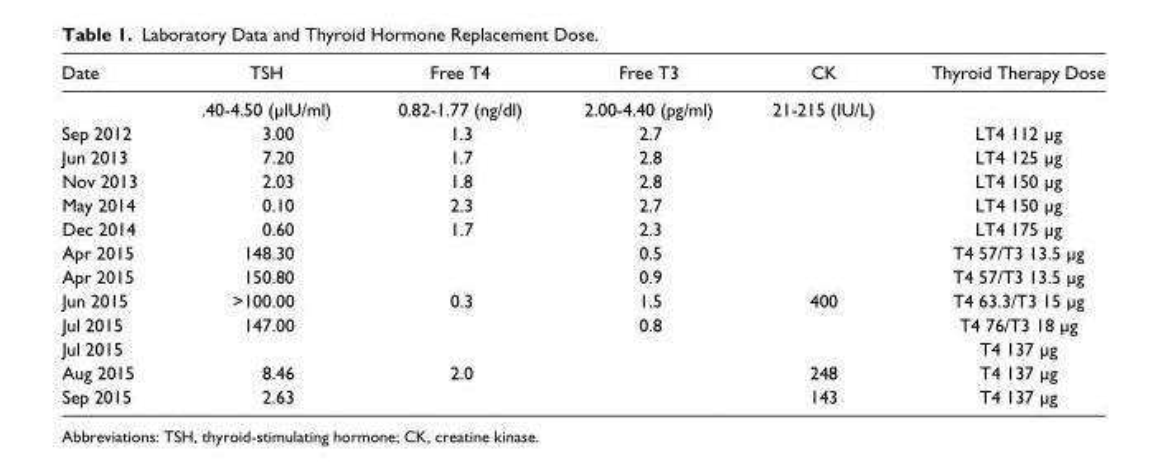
<table><thead><tr><td>Date</td><td>TSH</td><td>Free T4</td><td>Free T3</td><td>CK</td><td>Thyroid Therapy Dose</td></tr></thead><tbody><tr><td></td><td>.40-4.50 (µlU/ml)</td><td>0.82-1.77 (ng/dl)</td><td>2.00-4.40 (pg/ml)</td><td>21-215 (IU/L)</td><td></td></tr><tr><td>Sep 2012</td><td>3.00</td><td>1.3</td><td>2.7</td><td></td><td>LT4 112 µg</td></tr><tr><td>Jun 2013</td><td>7.20</td><td>1.7</td><td>2.8</td><td></td><td>LT4 125 µg</td></tr><tr><td>Nov 2013</td><td>2.03</td><td>1.8</td><td>2.8</td><td></td><td>LT4 150 µg</td></tr><tr><td>May 2014</td><td>0.10</td><td>2.3</td><td>2.7</td><td></td><td>LT4 150 µg</td></tr><tr><td>Dec 2014</td><td>0.60</td><td>1.7</td><td>2.3</td><td></td><td>LT4 175 µg</td></tr><tr><td>Apr 2015</td><td>148.30</td><td></td><td>0.5</td><td></td><td>T4 57/T3 13.5 µg</td></tr><tr><td>Apr 2015</td><td>150.80</td><td></td><td>0.9</td><td></td><td>T4 57/T3 13.5 µg</td></tr><tr><td>Jun 2015</td><td>&gt;100.00</td><td>0.3</td><td>1.5</td><td>400</td><td>T4 63.3/T3 15 µg</td></tr><tr><td>Jul 2015</td><td>147.00</td><td></td><td>0.8</td><td></td><td>T4 76/T3 18 µg</td></tr><tr><td>Jul 2015</td><td></td><td></td><td></td><td></td><td>T4 137 µg</td></tr><tr><td>Aug 2015</td><td>8.46</td><td>2.0</td><td></td><td>248</td><td>T4 137 µg</td></tr><tr><td>Sep 2015</td><td>2.63</td><td></td><td></td><td>143</td><td>T4 137 µg</td></tr></tbody></table>